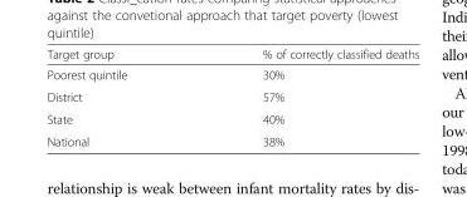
<table><thead><tr><td>Target group</td><td>% of correctly classified deaths</td></tr></thead><tbody><tr><td>Poorest quintile</td><td>30%</td></tr><tr><td>District</td><td>57%</td></tr><tr><td>State</td><td>40%</td></tr><tr><td>National</td><td>38%</td></tr></tbody></table>